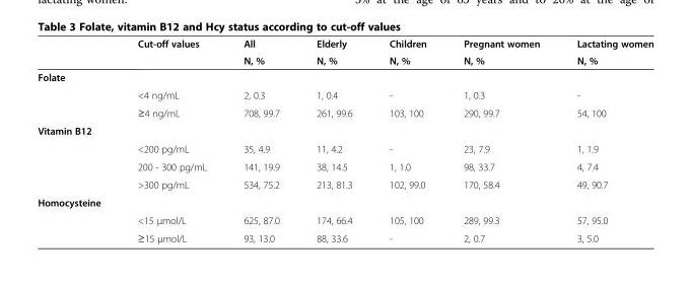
<table><thead><tr><td rowspan="2"></td><td rowspan="2">Cut-off values</td><td rowspan="2">All N, %</td><td rowspan="2">Elderly N, %</td><td rowspan="2">Children N, %</td><td rowspan="2">Pregnant women N, %</td><td rowspan="2">Lactating women N, %</td></tr><tr></tr></thead><tbody><tr><td colspan="7">Folate</td></tr><tr><td rowspan="2"></td><td>&lt;4 ng/mL</td><td>2, 0.3</td><td>1, 0.4</td><td>-</td><td>1, 0.3</td><td>-</td></tr><tr><td>≥4 ng/mL</td><td>708, 99.7</td><td>261, 99.6</td><td>103, 100</td><td>290, 99.7</td><td>54, 100</td></tr><tr><td colspan="7">Vitamin B12</td></tr><tr><td rowspan="3"></td><td>&lt;200 pg/mL</td><td>35, 4.9</td><td>11, 4.2</td><td>-</td><td>23, 7.9</td><td>1, 1.9</td></tr><tr><td>200 - 300 pg/mL</td><td>141, 19.9</td><td>38, 14.5</td><td>1, 1.0</td><td>98, 33.7</td><td>4, 7.4</td></tr><tr><td>&gt;300 pg/mL</td><td>534, 75.2</td><td>213, 81.3</td><td>102, 99.0</td><td>170, 58.4</td><td>49, 90.7</td></tr><tr><td colspan="7">Homocysteine</td></tr><tr><td rowspan="2"></td><td>&lt;15 μmol/L</td><td>625, 87.0</td><td>174, 66.4</td><td>105, 100</td><td>289, 99.3</td><td>57, 95.0</td></tr><tr><td>≥15 μmol/L</td><td>93, 13.0</td><td>88, 33.6</td><td>-</td><td>2, 0.7</td><td>3, 5.0</td></tr></tbody></table>